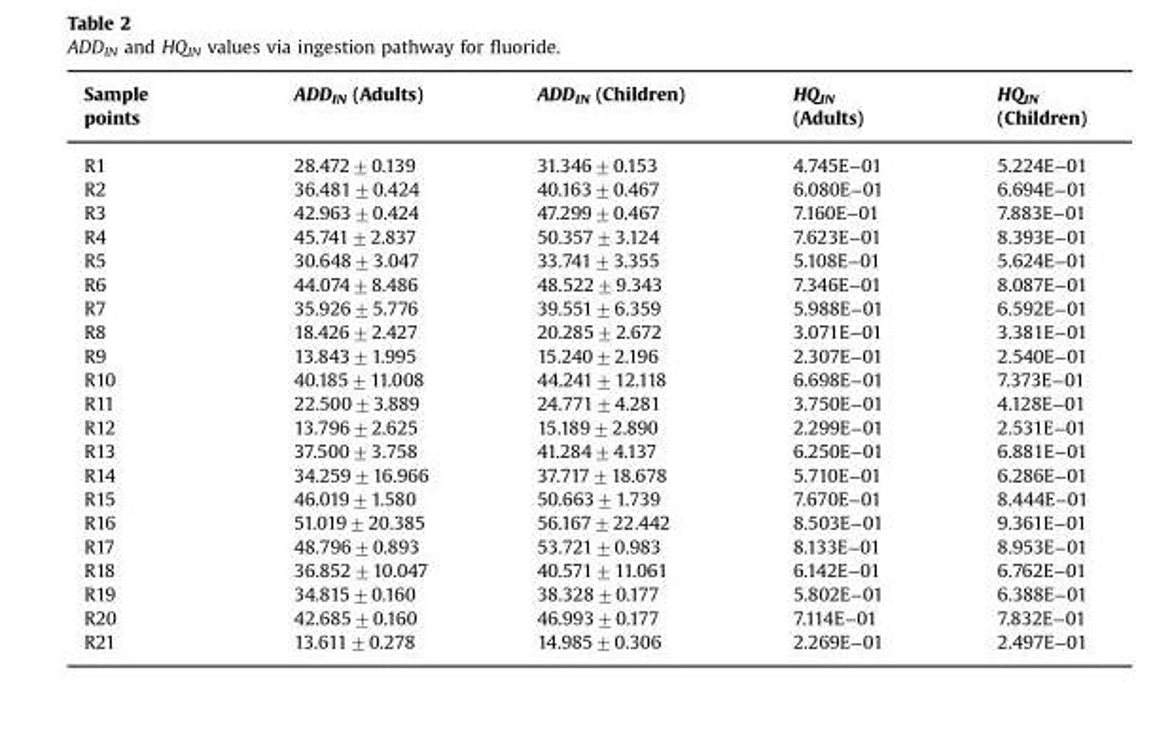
<table><thead><tr><td>Sample points</td><td>ADD<sub>IN</sub> (Adults)</td><td>ADD<sub>IN</sub> (Children)</td><td>HQ<sub>IN</sub> (Adults)</td><td>HQ<sub>IN</sub> (Children)</td></tr></thead><tbody><tr><td>R1</td><td>28.472±0.139</td><td>31.346±0.153</td><td>4.745E−01</td><td>5.224E−01</td></tr><tr><td>R2</td><td>36.481±0.424</td><td>40.163±0.467</td><td>6.080E−01</td><td>6.694E−01</td></tr><tr><td>R3</td><td>42.963±0.424</td><td>47.299±0.467</td><td>7.160E−01</td><td>7.883E−01</td></tr><tr><td>R4</td><td>45.741±2.837</td><td>50.357±3.124</td><td>7.623E−01</td><td>8.393E−01</td></tr><tr><td>R5</td><td>30.648±3.047</td><td>33.741±3.355</td><td>5.108E−01</td><td>5.624E−01</td></tr><tr><td>R6</td><td>44.074±8.486</td><td>48.522±9.343</td><td>7.346E−01</td><td>8.087E−01</td></tr><tr><td>R7</td><td>35.926±5.776</td><td>39.551±6.359</td><td>5.988E−01</td><td>6.592E−01</td></tr><tr><td>R8</td><td>18.426±2.427</td><td>20.285±2.672</td><td>3.071E−01</td><td>3.381E−01</td></tr><tr><td>R9</td><td>13.843±1.995</td><td>15.240±2.196</td><td>2.307E−01</td><td>2.540E−01</td></tr><tr><td>R10</td><td>40.185±11.008</td><td>44.241±12.118</td><td>6.698E−01</td><td>7.373E−01</td></tr><tr><td>R11</td><td>22.500±3.889</td><td>24.771±4.281</td><td>3.750E−01</td><td>4.128E−01</td></tr><tr><td>R12</td><td>13.796±2.625</td><td>15.189±2.890</td><td>2.299E−01</td><td>2.531E−01</td></tr><tr><td>R13</td><td>37.500±3.758</td><td>41.284±4.137</td><td>6.250E−01</td><td>6.881E−01</td></tr><tr><td>R14</td><td>34.259±16.966</td><td>37.717±18.678</td><td>5.710E−01</td><td>6.286E−01</td></tr><tr><td>R15</td><td>46.019±1.580</td><td>50.663±1.739</td><td>7.670E−01</td><td>8.444E−01</td></tr><tr><td>R16</td><td>51.019±20.385</td><td>56.167±22.442</td><td>8.503E−01</td><td>9.361E−01</td></tr><tr><td>R17</td><td>48.796±0.893</td><td>53.721±0.983</td><td>8.133E−01</td><td>8.953E−01</td></tr><tr><td>R18</td><td>36.852±10.047</td><td>40.571±11.061</td><td>6.142E−01</td><td>6.762E−01</td></tr><tr><td>R19</td><td>34.815±0.160</td><td>38.328±0.177</td><td>5.802E−01</td><td>6.388E−01</td></tr><tr><td>R20</td><td>42.685±0.160</td><td>46.993±0.177</td><td>7.114E−01</td><td>7.832E−01</td></tr><tr><td>R21</td><td>13.611±0.278</td><td>14.985±0.306</td><td>2.269E−01</td><td>2.497E−01</td></tr></tbody></table>